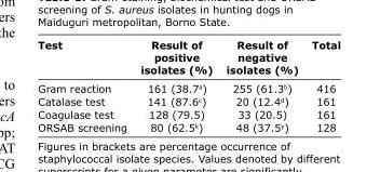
<table><thead><tr><td>Test</td><td>Result of positive isolates (%)</td><td>Result of negative isolates (%)</td><td>Total</td></tr></thead><tbody><tr><td>Gram reaction</td><td>161 (38.7a)</td><td>255 (61.3<sup>b</sup>)</td><td>416</td></tr><tr><td>Catalase test</td><td>141 (87.6<sup>c</sup>)</td><td>20 (12.4<sup>d</sup>)</td><td>161</td></tr><tr><td>Coagulase test</td><td>128 (79.5)</td><td>33 (20.5)</td><td>161</td></tr><tr><td>ORSAB screening</td><td>80 (62.5<sup>k</sup>)</td><td>48 (37.5<sup>y</sup>)</td><td>128</td></tr></tbody></table>